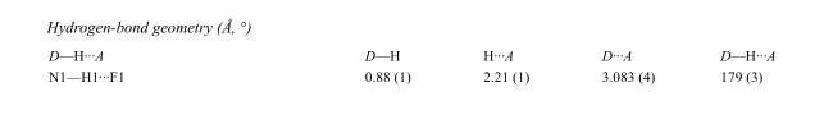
<table><tbody><tr><td>D—H···A</td><td>D—H</td><td>H···A</td><td>D···A</td><td>D—H···A</td></tr><tr><td>N1—H1···F1</td><td>0.88 (1)</td><td>2.21 (1)</td><td>3.083 (4)</td><td>179 (3)</td></tr></tbody></table>